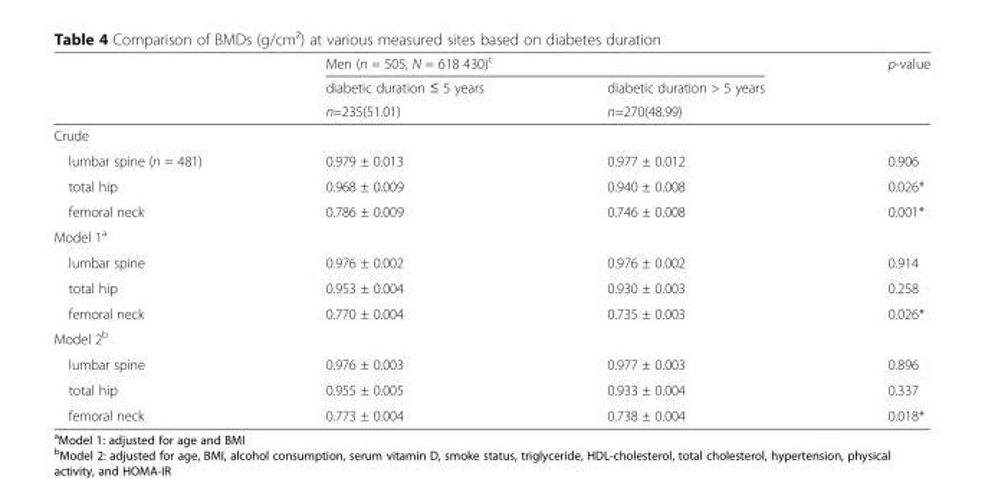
<table><thead><tr><td rowspan="3"></td><td colspan="2">Men (n = 505, N = 618 430)<sup>c</sup></td><td rowspan="3">p-value</td></tr><tr><td rowspan="2">diabetic duration ≤ 5 years n=235(51.01)</td><td rowspan="2">diabetic duration &gt; 5 years n=270(48.99)</td></tr><tr></tr></thead><tbody><tr><td colspan="4">Crude</td></tr><tr><td>lumbar spine (n = 481)</td><td>0.979 ± 0.013</td><td>0.977 ± 0.012</td><td>0.906</td></tr><tr><td>total hip</td><td>0.968 ± 0.009</td><td>0.940 ± 0.008</td><td>0.026*</td></tr><tr><td>femoral neck</td><td>0.786 ± 0.009</td><td>0.746 ± 0.008</td><td>0.001*</td></tr><tr><td colspan="4">Model 1<sup>a</sup></td></tr><tr><td>lumbar spine</td><td>0.976 ± 0.002</td><td>0.976 ± 0.002</td><td>0.914</td></tr><tr><td>total hip</td><td>0.953 ± 0.004</td><td>0.930 ± 0.003</td><td>0.258</td></tr><tr><td>femoral neck</td><td>0.770 ± 0.004</td><td>0.735 ± 0.003</td><td>0.026*</td></tr><tr><td colspan="4">Model 2<sup>b</sup></td></tr><tr><td>lumbar spine</td><td>0.976 ± 0.003</td><td>0.977 ± 0.003</td><td>0.896</td></tr><tr><td>total hip</td><td>0.955 ± 0.005</td><td>0.933 ± 0.004</td><td>0.337</td></tr><tr><td>femoral neck</td><td>0.773 ± 0.004</td><td>0.738 ± 0.004</td><td>0.018*</td></tr></tbody></table>